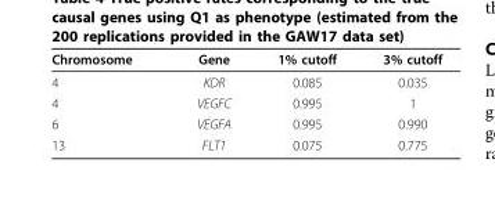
<table><thead><tr><td>Chromosome</td><td>Gene</td><td>1% cutoff</td><td>3% cutoff</td></tr></thead><tbody><tr><td>4</td><td>KDR</td><td>0.085</td><td>0.035</td></tr><tr><td>4</td><td>VEGFC</td><td>0.995</td><td>1</td></tr><tr><td>6</td><td>VEGFA</td><td>0.995</td><td>0.990</td></tr><tr><td>13</td><td>FLT1</td><td>0.075</td><td>0.775</td></tr></tbody></table>